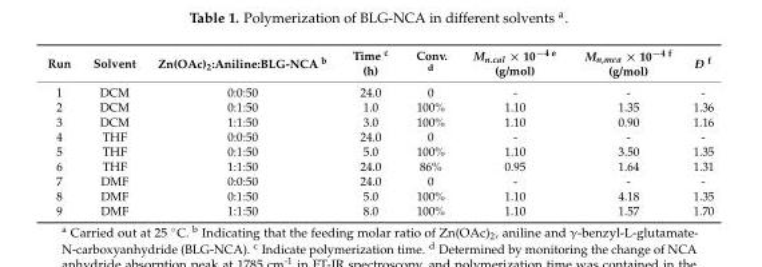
<table><thead><tr><td>Run</td><td>Solvent</td><td>Zn(OAc)2:Aniline:BLG-NCA b</td><td>Time c (h)</td><td>Conv. d</td><td>Mn.cal × 10−4 e (g/mol)</td><td>Mn,mea × 10−4 f (g/mol)</td><td>Ð f</td></tr></thead><tbody><tr><td>1</td><td>DCM</td><td>0:0:50</td><td>24.0</td><td>0</td><td>-</td><td>-</td><td>-</td></tr><tr><td>2</td><td>DCM</td><td>0:1:50</td><td>1.0</td><td>100%</td><td>1.10</td><td>1.35</td><td>1.36</td></tr><tr><td>3</td><td>DCM</td><td>1:1:50</td><td>3.0</td><td>100%</td><td>1.10</td><td>0.90</td><td>1.16</td></tr><tr><td>4</td><td>THF</td><td>0:0:50</td><td>24.0</td><td>0</td><td>-</td><td>-</td><td>-</td></tr><tr><td>5</td><td>THF</td><td>0:1:50</td><td>5.0</td><td>100%</td><td>1.10</td><td>3.50</td><td>1.35</td></tr><tr><td>6</td><td>THF</td><td>1:1:50</td><td>24.0</td><td>86%</td><td>0.95</td><td>1.64</td><td>1.31</td></tr><tr><td>7</td><td>DMF</td><td>0:0:50</td><td>24.0</td><td>0</td><td>-</td><td>-</td><td>-</td></tr><tr><td>8</td><td>DMF</td><td>0:1:50</td><td>5.0</td><td>100%</td><td>1.10</td><td>4.18</td><td>1.35</td></tr><tr><td>9</td><td>DMF</td><td>1:1:50</td><td>8.0</td><td>100%</td><td>1.10</td><td>1.57</td><td>1.70</td></tr></tbody></table>